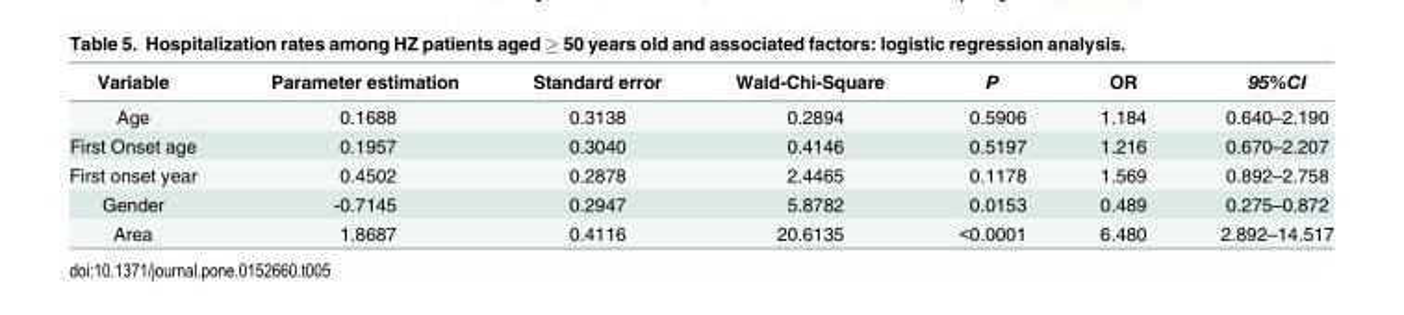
<table><thead><tr><td>Variable</td><td>Parameter estimation</td><td>Standard error</td><td>Wald-Chi-Square</td><td>P</td><td>OR</td><td>95%CI</td></tr></thead><tbody><tr><td>Age</td><td>0.1688</td><td>0.3138</td><td>0.2894</td><td>0.5906</td><td>1.184</td><td>0.640–2.190</td></tr><tr><td>First Onset age</td><td>0.1957</td><td>0.3040</td><td>0.4146</td><td>0.5197</td><td>1.216</td><td>0.670–2.207</td></tr><tr><td>First onset year</td><td>0.4502</td><td>0.2878</td><td>2.4465</td><td>0.1178</td><td>1.569</td><td>0.892–2.758</td></tr><tr><td>Gender</td><td>-0.7145</td><td>0.2947</td><td>5.8782</td><td>0.0153</td><td>0.489</td><td>0.275–0.872</td></tr><tr><td>Area</td><td>1.8687</td><td>0.4116</td><td>20.6135</td><td>&lt;0.0001</td><td>6.480</td><td>2.892–14.517</td></tr></tbody></table>